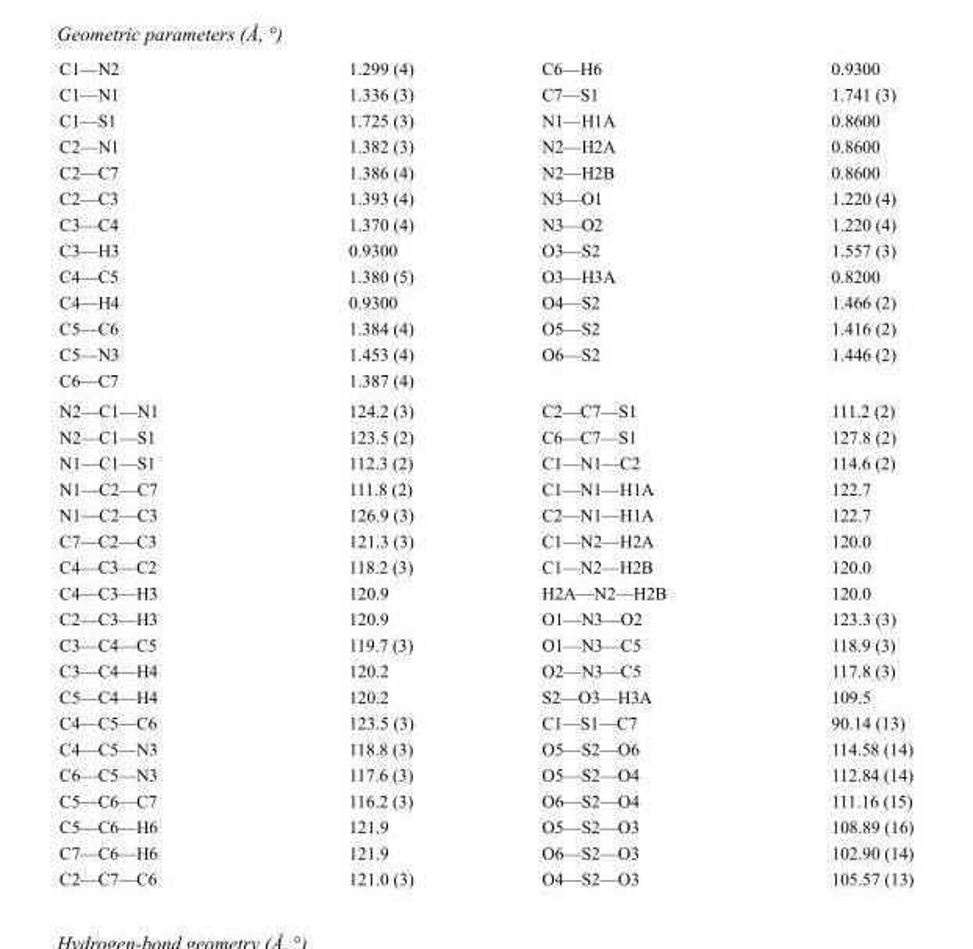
<table><tbody><tr><td>C1—N2</td><td>1.299 (4)</td><td>C6—H6</td><td>0.9300</td></tr><tr><td>C1—N1</td><td>1.336 (3)</td><td>C7—S1</td><td>1.741 (3)</td></tr><tr><td>C1—S1</td><td>1.725 (3)</td><td>N1—H1A</td><td>0.8600</td></tr><tr><td>C2—N1</td><td>1.382 (3)</td><td>N2—H2A</td><td>0.8600</td></tr><tr><td>C2—C7</td><td>1.386 (4)</td><td>N2—H2B</td><td>0.8600</td></tr><tr><td>C2—C3</td><td>1.393 (4)</td><td>N3—O1</td><td>1.220 (4)</td></tr><tr><td>C3—C4</td><td>1.370 (4)</td><td>N3—O2</td><td>1.220 (4)</td></tr><tr><td>C3—H3</td><td>0.9300</td><td>O3—S2</td><td>1.557 (3)</td></tr><tr><td>C4—C5</td><td>1.380 (5)</td><td>O3—H3A</td><td>0.8200</td></tr><tr><td>C4—H4</td><td>0.9300</td><td>O4—S2</td><td>1.466 (2)</td></tr><tr><td>C5—C6</td><td>1.384 (4)</td><td>O5—S2</td><td>1.416 (2)</td></tr><tr><td>C5—N3</td><td>1.453 (4)</td><td>O6—S2</td><td>1.446 (2)</td></tr><tr><td>C6—C7</td><td>1.387 (4)</td><td></td><td></td></tr><tr><td>N2—C1—N1</td><td>124.2 (3)</td><td>C2—C7—S1</td><td>111.2 (2)</td></tr><tr><td>N2—C1—S1</td><td>123.5 (2)</td><td>C6—C7—S1</td><td>127.8 (2)</td></tr><tr><td>N1—C1—S1</td><td>112.3 (2)</td><td>C1—N1—C2</td><td>114.6 (2)</td></tr><tr><td>N1—C2—C7</td><td>111.8 (2)</td><td>C1—N1—H1A</td><td>122.7</td></tr><tr><td>N1—C2—C3</td><td>126.9 (3)</td><td>C2—N1—H1A</td><td>122.7</td></tr><tr><td>C7—C2—C3</td><td>121.3 (3)</td><td>C1—N2—H2A</td><td>120.0</td></tr><tr><td>C4—C3—C2</td><td>118.2 (3)</td><td>C1—N2—H2B</td><td>120.0</td></tr><tr><td>C4—C3—H3</td><td>120.9</td><td>H2A—N2—H2B</td><td>120.0</td></tr><tr><td>C2—C3—H3</td><td>120.9</td><td>O1—N3—O2</td><td>123.3 (3)</td></tr><tr><td>C3—C4—C5</td><td>119.7 (3)</td><td>O1—N3—C5</td><td>118.9 (3)</td></tr><tr><td>C3—C4—H4</td><td>120.2</td><td>O2—N3—C5</td><td>117.8 (3)</td></tr><tr><td>C5—C4—H4</td><td>120.2</td><td>S2—O3—H3A</td><td>109.5</td></tr><tr><td>C4—C5—C6</td><td>123.5 (3)</td><td>C1—S1—C7</td><td>90.14 (13)</td></tr><tr><td>C4—C5—N3</td><td>118.8 (3)</td><td>O5—S2—O6</td><td>114.58 (14)</td></tr><tr><td>C6—C5—N3</td><td>117.6 (3)</td><td>O5—S2—O4</td><td>112.84 (14)</td></tr><tr><td>C5—C6—C7</td><td>116.2 (3)</td><td>O6—S2—O4</td><td>111.16 (15)</td></tr><tr><td>C5—C6—H6</td><td>121.9</td><td>O5—S2—O3</td><td>108.89 (16)</td></tr><tr><td>C7—C6—H6</td><td>121.9</td><td>O6—S2—O3</td><td>102.90 (14)</td></tr><tr><td>C2—C7—C6</td><td>121.0 (3)</td><td>O4—S2—O3</td><td>105.57 (13)</td></tr></tbody></table>